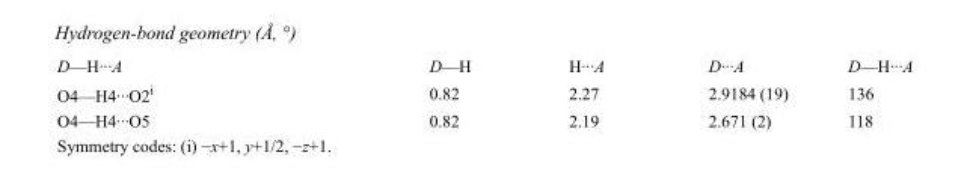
<table><tbody><tr><td>D—H···A</td><td>D—H</td><td>H···A</td><td>D···A</td><td>D—H···A</td></tr><tr><td>O4—H4···O2<sup>i</sup></td><td>0.82</td><td>2.27</td><td>2.9184 (19)</td><td>136</td></tr><tr><td>O4—H4···O5</td><td>0.82</td><td>2.19</td><td>2.671 (2)</td><td>118</td></tr></tbody></table>